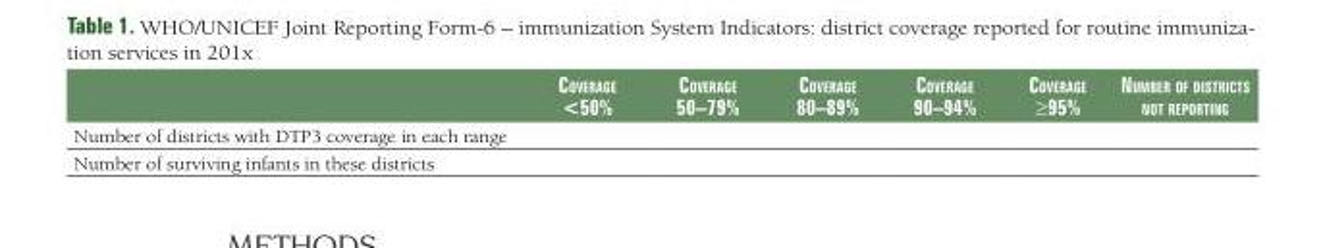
<table><thead><tr><td></td><td>Coverage &lt;50%</td><td>Coverage 50–79%</td><td>Coverage 80–89%</td><td>Coverage 90–94%</td><td>Coverage ≥95%</td><td>Number of distriCts Not reportiNg</td></tr></thead><tbody><tr><td colspan="7">Number of districts with DTP3 coverage in each range</td></tr><tr><td>Number of surviving infants in these districts</td><td></td><td></td><td></td><td></td><td></td><td></td></tr></tbody></table>